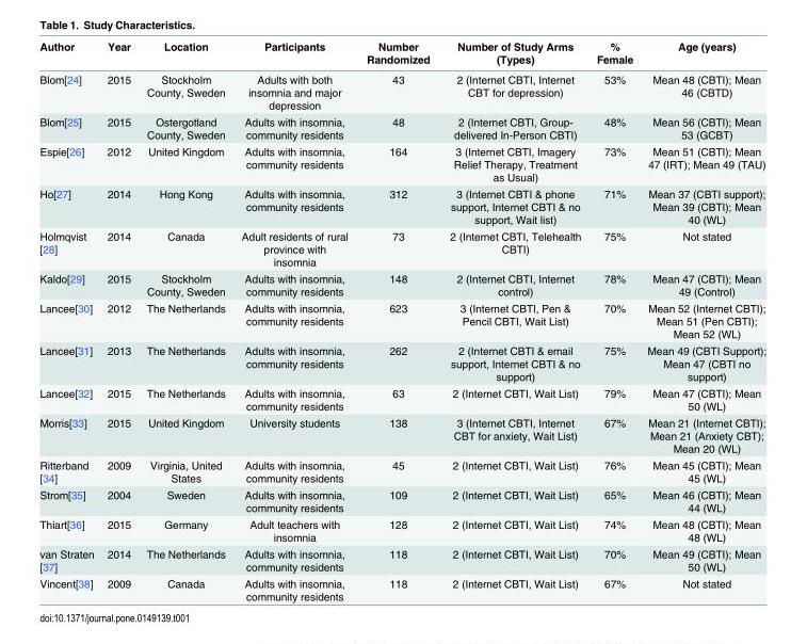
<table><thead><tr><td>Author</td><td>Year</td><td>Location</td><td>Participants</td><td>Number Randomized</td><td>Number of Study Arms (Types)</td><td>% Female</td><td>Age (years)</td></tr></thead><tbody><tr><td>Blom[24]</td><td>2015</td><td>Stockholm County, Sweden</td><td>Adults with both insomnia and major depression</td><td>43</td><td>2 (Internet CBTI, Internet CBT for depression)</td><td>53%</td><td>Mean 48 (CBTI); Mean 46 (CBTD)</td></tr><tr><td>Blom[25]</td><td>2015</td><td>Ostergotland County, Sweden</td><td>Adults with insomnia, community residents</td><td>48</td><td>2 (Internet CBTI, Group- delivered In-Person CBTI)</td><td>48%</td><td>Mean 56 (CBTI); Mean 53 (GCBT)</td></tr><tr><td>Espie[26]</td><td>2012</td><td>United Kingdom</td><td>Adults with insomnia, community residents</td><td>164</td><td>3 (Internet CBTI, Imagery Relief Therapy, Treatment as Usual)</td><td>73%</td><td>Mean 51 (CBTI); Mean 47 (IRT); Mean 49 (TAU)</td></tr><tr><td>Ho[27]</td><td>2014</td><td>Hong Kong</td><td>Adults with insomnia, community residents</td><td>312</td><td>3 (Internet CBTI &amp; phone support, Internet CBTI &amp; no support, Wait list)</td><td>71%</td><td>Mean 37 (CBTI support); Mean 39 (CBTI); Mean 40 (WL)</td></tr><tr><td>Holmqvist [28]</td><td>2014</td><td>Canada</td><td>Adult residents of rural province with insomnia</td><td>73</td><td>2 (Internet CBTI, Telehealth CBTI)</td><td>75%</td><td>Not stated</td></tr><tr><td>Kaldo[29]</td><td>2015</td><td>Stockholm County, Sweden</td><td>Adults with insomnia, community residents</td><td>148</td><td>2 (Internet CBTI, Internet control)</td><td>78%</td><td>Mean 47 (CBTI); Mean 49 (Control)</td></tr><tr><td>Lancee[30]</td><td>2012</td><td>The Netherlands</td><td>Adults with insomnia, community residents</td><td>623</td><td>3 (Internet CBTI, Pen &amp; Pencil CBTI, Wait List)</td><td>70%</td><td>Mean 52 (Internet CBTI); Mean 51 (Pen CBTI); Mean 52 (WL)</td></tr><tr><td>Lancee[31]</td><td>2013</td><td>The Netherlands</td><td>Adults with insomnia, community residents</td><td>262</td><td>2 (Internet CBTI &amp; email support, Internet CBTI &amp; no support)</td><td>75%</td><td>Mean 49 (CBTI Support); Mean 47 (CBTI no support)</td></tr><tr><td>Lancee[32]</td><td>2015</td><td>The Netherlands</td><td>Adults with insomnia, community residents</td><td>63</td><td>2 (Internet CBTI, Wait List)</td><td>79%</td><td>Mean 47 (CBTI); Mean 50 (WL)</td></tr><tr><td>Morris[33]</td><td>2015</td><td>United Kingdom</td><td>University students</td><td>138</td><td>3 (Internet CBTI, Internet CBT for anxiety, Wait List)</td><td>67%</td><td>Mean 21 (Internet CBTI); Mean 21 (Anxiety CBT); Mean 20 (WL)</td></tr><tr><td>Ritterband [34]</td><td>2009</td><td>Virginia, United States</td><td>Adults with insomnia, community residents</td><td>45</td><td>2 (Internet CBTI, Wait List)</td><td>76%</td><td>Mean 45 (CBTI); Mean 45 (WL)</td></tr><tr><td>Strom[35]</td><td>2004</td><td>Sweden</td><td>Adults with insomnia, community residents</td><td>109</td><td>2 (Internet CBTI, Wait List)</td><td>65%</td><td>Mean 46 (CBTI); Mean 44 (WL)</td></tr><tr><td>Thiart[36]</td><td>2015</td><td>Germany</td><td>Adult teachers with insomnia</td><td>128</td><td>2 (Internet CBTI, Wait List)</td><td>74%</td><td>Mean 48 (CBTI); Mean 48 (WL)</td></tr><tr><td>van Straten [37]</td><td>2014</td><td>The Netherlands</td><td>Adults with insomnia, community residents</td><td>118</td><td>2 (Internet CBTI, Wait List)</td><td>70%</td><td>Mean 49 (CBTI); Mean 50 (WL)</td></tr><tr><td>Vincent[38]</td><td>2009</td><td>Canada</td><td>Adults with insomnia, community residents</td><td>118</td><td>2 (Internet CBTI, Wait List)</td><td>67%</td><td>Not stated</td></tr></tbody></table>